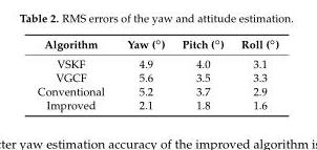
<table><thead><tr><td>Algorithm</td><td>Yaw (◦)</td><td>Pitch (◦)</td><td>Roll (◦)</td></tr></thead><tbody><tr><td>VSKF</td><td>4.9</td><td>4.0</td><td>3.1</td></tr><tr><td>VGCF</td><td>5.6</td><td>3.5</td><td>3.3</td></tr><tr><td>Conventional</td><td>5.2</td><td>3.7</td><td>2.9</td></tr><tr><td>Improved</td><td>2.1</td><td>1.8</td><td>1.6</td></tr></tbody></table>